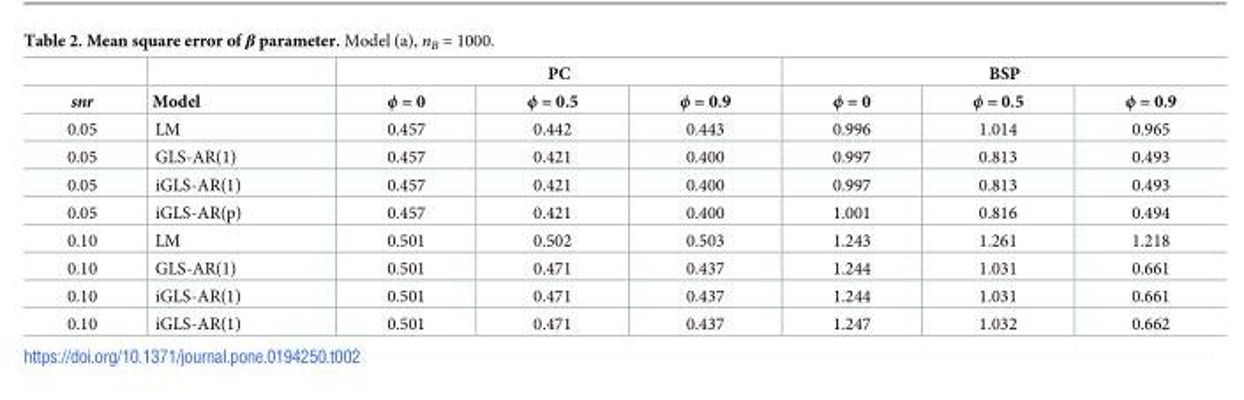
<table><thead><tr><td rowspan="2">snr</td><td rowspan="2">Model</td><td colspan="3">PC</td><td colspan="3">BSP</td></tr><tr><td>ϕ = 0</td><td>ϕ = 0.5</td><td>ϕ = 0.9</td><td>ϕ = 0</td><td>ϕ = 0.5</td><td>ϕ = 0.9</td></tr></thead><tbody><tr><td>0.05</td><td>LM</td><td>0.457</td><td>0.442</td><td>0.443</td><td>0.996</td><td>1.014</td><td>0.965</td></tr><tr><td>0.05</td><td>GLS-AR(1)</td><td>0.457</td><td>0.421</td><td>0.400</td><td>0.997</td><td>0.813</td><td>0.493</td></tr><tr><td>0.05</td><td>iGLS-AR(1)</td><td>0.457</td><td>0.421</td><td>0.400</td><td>0.997</td><td>0.813</td><td>0.493</td></tr><tr><td>0.05</td><td>iGLS-AR(p)</td><td>0.457</td><td>0.421</td><td>0.400</td><td>1.001</td><td>0.816</td><td>0.494</td></tr><tr><td>0.10</td><td>LM</td><td>0.501</td><td>0.502</td><td>0.503</td><td>1.243</td><td>1.261</td><td>1.218</td></tr><tr><td>0.10</td><td>GLS-AR(1)</td><td>0.501</td><td>0.471</td><td>0.437</td><td>1.244</td><td>1.031</td><td>0.661</td></tr><tr><td>0.10</td><td>iGLS-AR(1)</td><td>0.501</td><td>0.471</td><td>0.437</td><td>1.244</td><td>1.031</td><td>0.661</td></tr><tr><td>0.10</td><td>iGLS-AR(1)</td><td>0.501</td><td>0.471</td><td>0.437</td><td>1.247</td><td>1.032</td><td>0.662</td></tr></tbody></table>